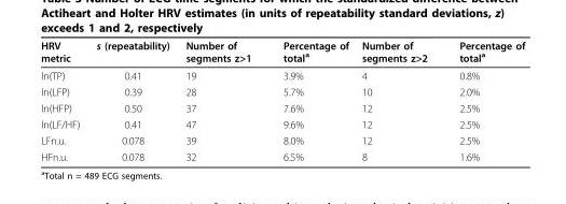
<table><thead><tr><td>HRV metric</td><td>s (repeatability)</td><td>Number of segments z&gt;1</td><td>Percentage of total<sup>a</sup></td><td>Number of segments z&gt;2</td><td>Percentage of total<sup>a</sup></td></tr></thead><tbody><tr><td>ln(TP)</td><td>0.41</td><td>19</td><td>3.9%</td><td>4</td><td>0.8%</td></tr><tr><td>ln(LFP)</td><td>0.39</td><td>28</td><td>5.7%</td><td>10</td><td>2.0%</td></tr><tr><td>ln(HFP)</td><td>0.50</td><td>37</td><td>7.6%</td><td>12</td><td>2.5%</td></tr><tr><td>ln(LF/HF)</td><td>0.41</td><td>47</td><td>9.6%</td><td>12</td><td>2.5%</td></tr><tr><td>LFn.u.</td><td>0.078</td><td>39</td><td>8.0%</td><td>12</td><td>2.5%</td></tr><tr><td>HFn.u.</td><td>0.078</td><td>32</td><td>6.5%</td><td>8</td><td>1.6%</td></tr></tbody></table>